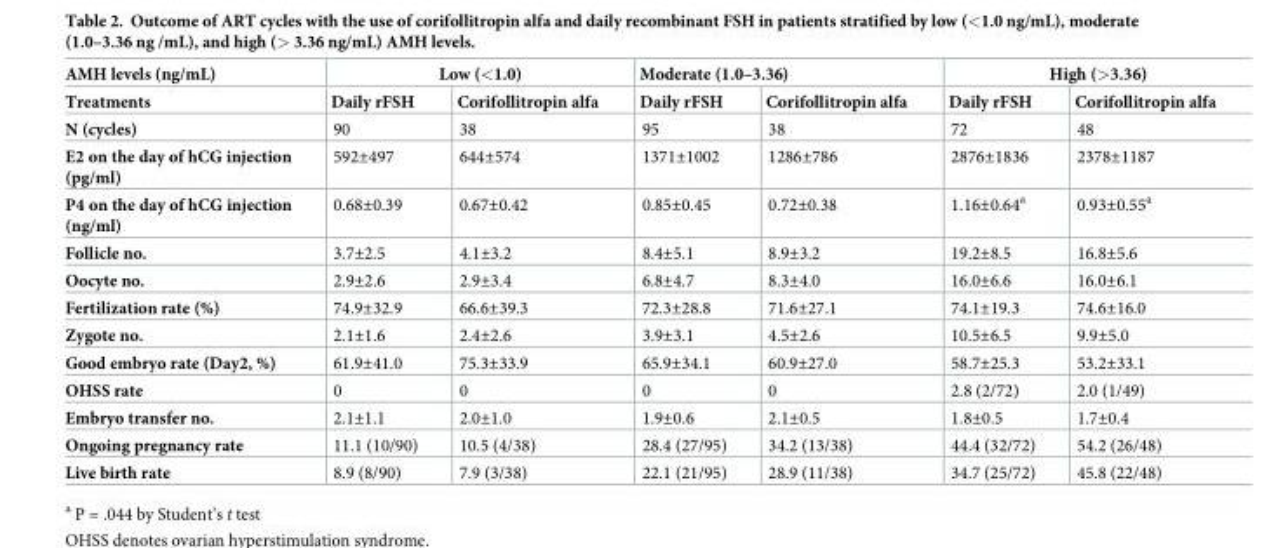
<table><thead><tr><td rowspan="2">AMH levels (ng/mL) Treatments</td><td colspan="2">Low (&lt;1.0)</td><td colspan="2">Moderate (1.0–3.36)</td><td colspan="2">High (&gt;3.36)</td></tr><tr><td>Daily rFSH</td><td>Corifollitropin alfa</td><td>Daily rFSH</td><td>Corifollitropin alfa</td><td>Daily rFSH</td><td>Corifollitropin alfa</td></tr></thead><tbody><tr><td>N (cycles)</td><td>90</td><td>38</td><td>95</td><td>38</td><td>72</td><td>48</td></tr><tr><td>E2 on the day of hCG injection (pg/ml)</td><td>592±497</td><td>644±574</td><td>1371±1002</td><td>1286±786</td><td>2876±1836</td><td>2378±1187</td></tr><tr><td>P4 on the day of hCG injection (ng/ml)</td><td>0.68±0.39</td><td>0.67±0.42</td><td>0.85±0.45</td><td>0.72±0.38</td><td>1.16±0.64<sup>a</sup></td><td>0.93±0.55<sup>a</sup></td></tr><tr><td>Follicle no.</td><td>3.7±2.5</td><td>4.1±3.2</td><td>8.4±5.1</td><td>8.9±3.2</td><td>19.2±8.5</td><td>16.8±5.6</td></tr><tr><td>Oocyte no.</td><td>2.9±2.6</td><td>2.9±3.4</td><td>6.8±4.7</td><td>8.3±4.0</td><td>16.0±6.6</td><td>16.0±6.1</td></tr><tr><td>Fertilization rate (%)</td><td>74.9±32.9</td><td>66.6±39.3</td><td>72.3±28.8</td><td>71.6±27.1</td><td>74.1±19.3</td><td>74.6±16.0</td></tr><tr><td>Zygote no.</td><td>2.1±1.6</td><td>2.4±2.6</td><td>3.9±3.1</td><td>4.5±2.6</td><td>10.5±6.5</td><td>9.9±5.0</td></tr><tr><td>Good embryo rate (Day2, %)</td><td>61.9±41.0</td><td>75.3±33.9</td><td>65.9±34.1</td><td>60.9±27.0</td><td>58.7±25.3</td><td>53.2±33.1</td></tr><tr><td>OHSS rate</td><td>0</td><td>0</td><td>0</td><td>0</td><td>2.8 (2/72)</td><td>2.0 (1/49)</td></tr><tr><td>Embryo transfer no.</td><td>2.1±1.1</td><td>2.0±1.0</td><td>1.9±0.6</td><td>2.1±0.5</td><td>1.8±0.5</td><td>1.7±0.4</td></tr><tr><td>Ongoing pregnancy rate</td><td>11.1 (10/90)</td><td>10.5 (4/38)</td><td>28.4 (27/95)</td><td>34.2 (13/38)</td><td>44.4 (32/72)</td><td>54.2 (26/48)</td></tr><tr><td>Live birth rate</td><td>8.9 (8/90)</td><td>7.9 (3/38)</td><td>22.1 (21/95)</td><td>28.9 (11/38)</td><td>34.7 (25/72)</td><td>45.8 (22/48)</td></tr></tbody></table>